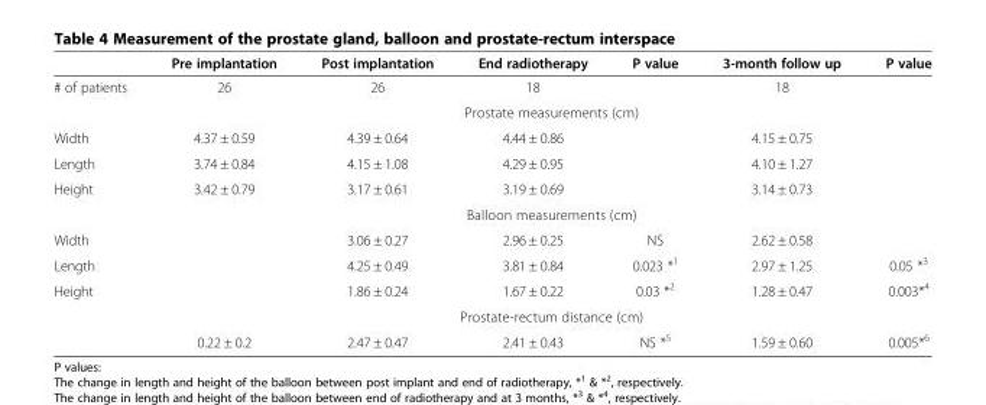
<table><thead><tr><td></td><td>Pre implantation</td><td>Post implantation</td><td>End radiotherapy</td><td>P value</td><td>3-month follow up</td><td>P value</td></tr></thead><tbody><tr><td rowspan="2"># of patients</td><td>26</td><td>26</td><td>18</td><td></td><td>18</td><td></td></tr><tr><td colspan="6">Prostate measurements (cm)</td></tr><tr><td>Width</td><td>4.37 ± 0.59</td><td>4.39 ± 0.64</td><td>4.44 ± 0.86</td><td></td><td>4.15 ± 0.75</td><td></td></tr><tr><td>Length</td><td>3.74 ± 0.84</td><td>4.15 ± 1.08</td><td>4.29 ± 0.95</td><td></td><td>4.10 ± 1.27</td><td></td></tr><tr><td rowspan="2">Height</td><td>3.42 ± 0.79</td><td>3.17 ± 0.61</td><td>3.19 ± 0.69</td><td></td><td>3.14 ± 0.73</td><td></td></tr><tr><td colspan="6">Balloon measurements (cm)</td></tr><tr><td>Width</td><td></td><td>3.06 ± 0.27</td><td>2.96 ± 0.25</td><td>NS</td><td>2.62 ± 0.58</td><td></td></tr><tr><td>Length</td><td></td><td>4.25 ± 0.49</td><td>3.81 ± 0.84</td><td>0.023 *<sup>1</sup></td><td>2.97 ± 1.25</td><td>0.05 *<sup>3</sup></td></tr><tr><td rowspan="3">Height</td><td></td><td>1.86 ± 0.24</td><td>1.67 ± 0.22</td><td>0.03 *<sup>2</sup></td><td>1.28 ± 0.47</td><td>0.003*<sup>4</sup></td></tr><tr><td colspan="6">Prostate-rectum distance (cm)</td></tr><tr><td>0.22 ± 0.2</td><td>2.47 ± 0.47</td><td>2.41 ± 0.43</td><td>NS *<sup>5</sup></td><td>1.59 ± 0.60</td><td>0.005*<sup>6</sup></td></tr></tbody></table>